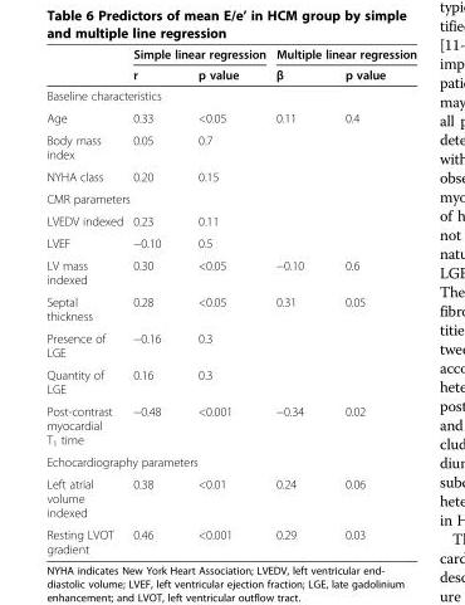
<table><thead><tr><td rowspan="2"></td><td colspan="2">Simple linear regression</td><td colspan="2">Multiple linear regression</td></tr><tr><td>r</td><td>p value</td><td>β</td><td>p value</td></tr></thead><tbody><tr><td colspan="5">Baseline characteristics</td></tr><tr><td>Age</td><td>0.33</td><td>&lt;0.05</td><td>0.11</td><td>0.4</td></tr><tr><td>Body mass index</td><td>0.05</td><td>0.7</td><td></td><td></td></tr><tr><td>NYHA class</td><td>0.20</td><td>0.15</td><td></td><td></td></tr><tr><td colspan="5">CMR parameters</td></tr><tr><td>LVEDV indexed</td><td>0.23</td><td>0.11</td><td></td><td></td></tr><tr><td>LVEF</td><td>−0.10</td><td>0.5</td><td></td><td></td></tr><tr><td>LV mass indexed</td><td>0.30</td><td>&lt;0.05</td><td>−0.10</td><td>0.6</td></tr><tr><td>Septal thickness</td><td>0.28</td><td>&lt;0.05</td><td>0.31</td><td>0.05</td></tr><tr><td>Presence of LGE</td><td>−0.16</td><td>0.3</td><td></td><td></td></tr><tr><td>Quantity of LGE</td><td>0.16</td><td>0.3</td><td></td><td></td></tr><tr><td>Post-contrast myocardial T<sub>1</sub> time</td><td>−0.48</td><td>&lt;0.001</td><td>−0.34</td><td>0.02</td></tr><tr><td colspan="5">Echocardiography parameters</td></tr><tr><td>Left atrial volume indexed</td><td>0.38</td><td>&lt;0.01</td><td>0.24</td><td>0.06</td></tr><tr><td>Resting LVOT gradient</td><td>0.46</td><td>&lt;0.001</td><td>0.29</td><td>0.03</td></tr></tbody></table>